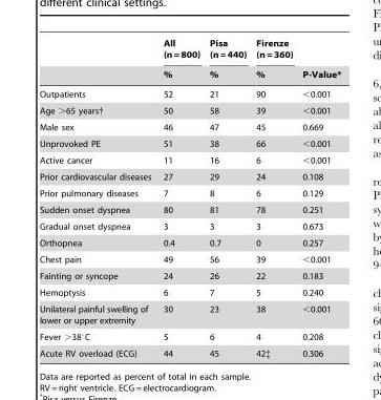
<table><thead><tr><td rowspan="2"></td><td rowspan="2">All (n = 800) %</td><td rowspan="2">Pisa (n = 440) %</td><td rowspan="2">Firenze (n = 360) %</td><td rowspan="2">P-Value*</td></tr><tr></tr></thead><tbody><tr><td>Outpatients</td><td>52</td><td>21</td><td>90</td><td>&lt;0.001</td></tr><tr><td>Age &gt;65 years†</td><td>50</td><td>58</td><td>39</td><td>&lt;0.001</td></tr><tr><td>Male sex</td><td>46</td><td>47</td><td>45</td><td>0.669</td></tr><tr><td>Unprovoked PE</td><td>51</td><td>38</td><td>66</td><td>&lt;0.001</td></tr><tr><td>Active cancer</td><td>11</td><td>16</td><td>6</td><td>&lt;0.001</td></tr><tr><td>Prior cardiovascular diseases</td><td>27</td><td>29</td><td>24</td><td>0.108</td></tr><tr><td>Prior pulmonary diseases</td><td>7</td><td>8</td><td>6</td><td>0.129</td></tr><tr><td>Sudden onset dyspnea</td><td>80</td><td>81</td><td>78</td><td>0.251</td></tr><tr><td>Gradual onset dyspnea</td><td>3</td><td>3</td><td>3</td><td>0.673</td></tr><tr><td>Orthopnea</td><td>0.4</td><td>0.7</td><td>0</td><td>0.257</td></tr><tr><td>Chest pain</td><td>49</td><td>56</td><td>39</td><td>&lt;0.001</td></tr><tr><td>Fainting or syncope</td><td>24</td><td>26</td><td>22</td><td>0.183</td></tr><tr><td>Hemoptysis</td><td>6</td><td>7</td><td>5</td><td>0.240</td></tr><tr><td>Unilateral painful swelling of lower or upper extremity</td><td>30</td><td>23</td><td>38</td><td>&lt;0.001</td></tr><tr><td>Fever &gt;38°C</td><td>5</td><td>6</td><td>4</td><td>0.208</td></tr><tr><td>Acute RV overload (ECG)</td><td>44</td><td>45</td><td>42‡</td><td>0.306</td></tr></tbody></table>